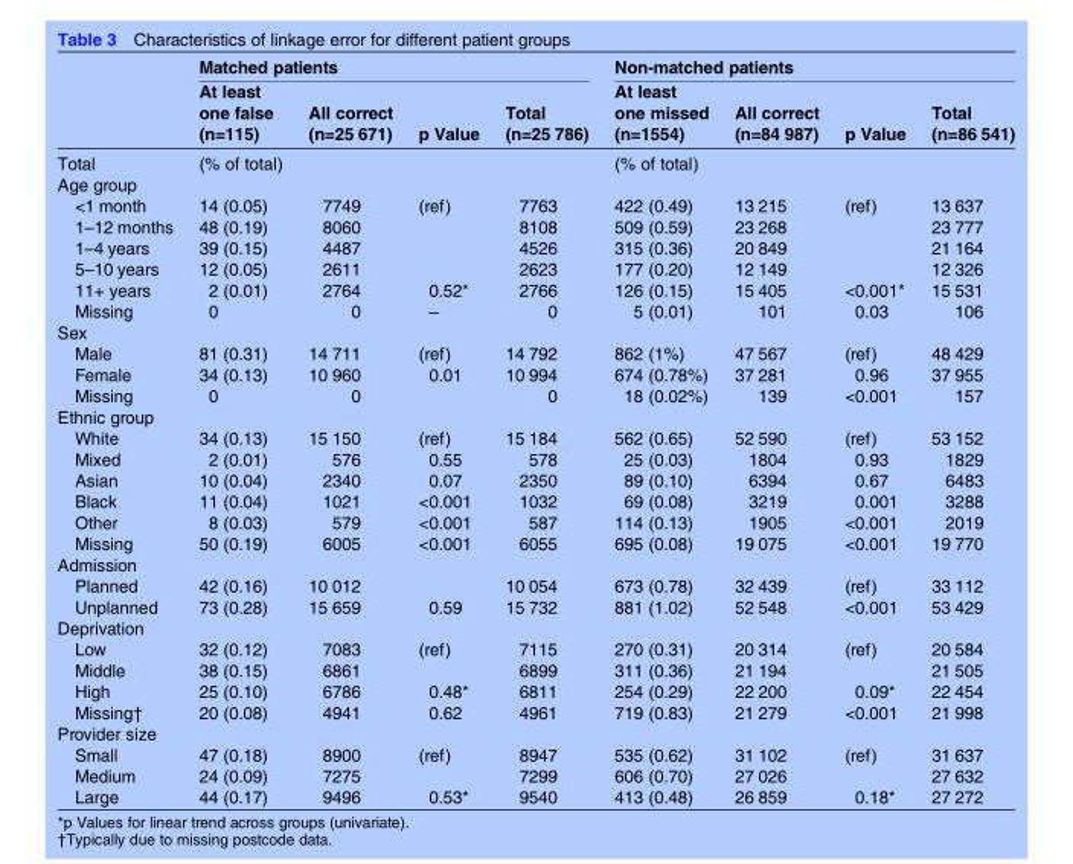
<table><thead><tr><td rowspan="2"></td><td colspan="4">Matched patients</td><td colspan="4">Non-matched patients</td></tr><tr><td>At least one false (n=115)</td><td>All correct (n=25 671)</td><td>p Value</td><td>Total (n=25 786)</td><td>At least one missed (n=1554)</td><td>All correct (n=84 987)</td><td>p Value</td><td>Total (n=86 541)</td></tr></thead><tbody><tr><td>Total</td><td>(% of total)</td><td></td><td></td><td></td><td>(% of total)</td><td></td><td></td><td></td></tr><tr><td colspan="9">Age group</td></tr><tr><td>&lt;1 month</td><td>14 (0.05)</td><td>7749</td><td>(ref)</td><td>7763</td><td>422 (0.49)</td><td>13 215</td><td>(ref)</td><td>13 637</td></tr><tr><td>1–12 months</td><td>48 (0.19)</td><td>8060</td><td></td><td>8108</td><td>509 (0.59)</td><td>23 268</td><td></td><td>23 777</td></tr><tr><td>1–4 years</td><td>39 (0.15)</td><td>4487</td><td></td><td>4526</td><td>315 (0.36)</td><td>20 849</td><td></td><td>21 164</td></tr><tr><td>5–10 years</td><td>12 (0.05)</td><td>2611</td><td></td><td>2623</td><td>177 (0.20)</td><td>12 149</td><td></td><td>12 326</td></tr><tr><td>11+ years</td><td>2 (0.01)</td><td>2764</td><td>0.52*</td><td>2766</td><td>126 (0.15)</td><td>15 405</td><td>&lt;0.001*</td><td>15 531</td></tr><tr><td>Missing</td><td>0</td><td>0</td><td>–</td><td>0</td><td>5 (0.01)</td><td>101</td><td>0.03</td><td>106</td></tr><tr><td colspan="9">Sex</td></tr><tr><td>Male</td><td>81 (0.31)</td><td>14 711</td><td>(ref)</td><td>14 792</td><td>862 (1%)</td><td>47 567</td><td>(ref)</td><td>48 429</td></tr><tr><td>Female</td><td>34 (0.13)</td><td>10 960</td><td>0.01</td><td>10 994</td><td>674 (0.78%)</td><td>37 281</td><td>0.96</td><td>37 955</td></tr><tr><td>Missing</td><td>0</td><td>0</td><td></td><td>0</td><td>18 (0.02%)</td><td>139</td><td>&lt;0.001</td><td>157</td></tr><tr><td colspan="9">Ethnic group</td></tr><tr><td>White</td><td>34 (0.13)</td><td>15 150</td><td>(ref)</td><td>15 184</td><td>562 (0.65)</td><td>52 590</td><td>(ref)</td><td>53 152</td></tr><tr><td>Mixed</td><td>2 (0.01)</td><td>576</td><td>0.55</td><td>578</td><td>25 (0.03)</td><td>1804</td><td>0.93</td><td>1829</td></tr><tr><td>Asian</td><td>10 (0.04)</td><td>2340</td><td>0.07</td><td>2350</td><td>89 (0.10)</td><td>6394</td><td>0.67</td><td>6483</td></tr><tr><td>Black</td><td>11 (0.04)</td><td>1021</td><td>&lt;0.001</td><td>1032</td><td>69 (0.08)</td><td>3219</td><td>0.001</td><td>3288</td></tr><tr><td>Other</td><td>8 (0.03)</td><td>579</td><td>&lt;0.001</td><td>587</td><td>114 (0.13)</td><td>1905</td><td>&lt;0.001</td><td>2019</td></tr><tr><td>Missing</td><td>50 (0.19)</td><td>6005</td><td>&lt;0.001</td><td>6055</td><td>695 (0.08)</td><td>19 075</td><td>&lt;0.001</td><td>19 770</td></tr><tr><td colspan="9">Admission</td></tr><tr><td>Planned</td><td>42 (0.16)</td><td>10 012</td><td></td><td>10 054</td><td>673 (0.78)</td><td>32 439</td><td>(ref)</td><td>33 112</td></tr><tr><td>Unplanned</td><td>73 (0.28)</td><td>15 659</td><td>0.59</td><td>15 732</td><td>881 (1.02)</td><td>52 548</td><td>&lt;0.001</td><td>53 429</td></tr><tr><td colspan="9">Deprivation</td></tr><tr><td>Low</td><td>32 (0.12)</td><td>7083</td><td>(ref)</td><td>7115</td><td>270 (0.31)</td><td>20 314</td><td>(ref)</td><td>20 584</td></tr><tr><td>Middle</td><td>38 (0.15)</td><td>6861</td><td></td><td>6899</td><td>311 (0.36)</td><td>21 194</td><td></td><td>21 505</td></tr><tr><td>High</td><td>25 (0.10)</td><td>6786</td><td>0.48*</td><td>6811</td><td>254 (0.29)</td><td>22 200</td><td>0.09*</td><td>22 454</td></tr><tr><td>Missing†</td><td>20 (0.08)</td><td>4941</td><td>0.62</td><td>4961</td><td>719 (0.83)</td><td>21 279</td><td>&lt;0.001</td><td>21 998</td></tr><tr><td colspan="9">Provider size</td></tr><tr><td>Small</td><td>47 (0.18)</td><td>8900</td><td>(ref)</td><td>8947</td><td>535 (0.62)</td><td>31 102</td><td>(ref)</td><td>31 637</td></tr><tr><td>Medium</td><td>24 (0.09)</td><td>7275</td><td></td><td>7299</td><td>606 (0.70)</td><td>27 026</td><td></td><td>27 632</td></tr><tr><td>Large</td><td>44 (0.17)</td><td>9496</td><td>0.53*</td><td>9540</td><td>413 (0.48)</td><td>26 859</td><td>0.18*</td><td>27 272</td></tr></tbody></table>